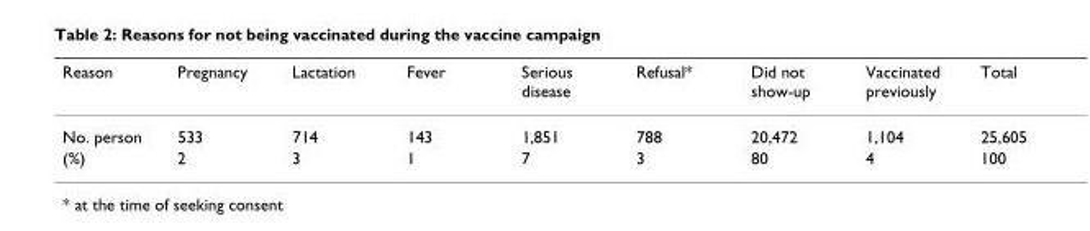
<table><thead><tr><td>Reason</td><td>Pregnancy</td><td>Lactation</td><td>Fever</td><td>Serious disease</td><td>Refusal*</td><td>Did not show-up</td><td>Vaccinated previously</td><td>Total</td></tr></thead><tbody><tr><td>No. person</td><td>533</td><td>714</td><td>143</td><td>1,851</td><td>788</td><td>20,472</td><td>1,104</td><td>25,605</td></tr><tr><td>(%)</td><td>2</td><td>3</td><td>1</td><td>7</td><td>3</td><td>80</td><td>4</td><td>100</td></tr></tbody></table>